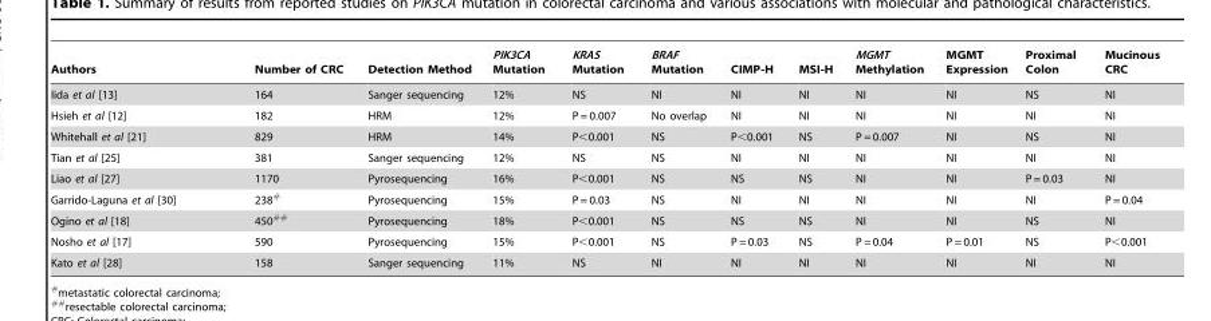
<table><thead><tr><td>Authors</td><td>Number of CRC</td><td>Detection Method</td><td>PIK3CA Mutation</td><td>KRAS Mutation</td><td>BRAF Mutation</td><td>CIMP-H</td><td>MSI-H</td><td>MGMT Methylation</td><td>MGMT Expression</td><td>Proximal Colon</td><td>Mucinous CRC</td></tr></thead><tbody><tr><td>Iida et al [13]</td><td>164</td><td>Sanger sequencing</td><td>12%</td><td>NS</td><td>NI</td><td>NI</td><td>NI</td><td>NI</td><td>NI</td><td>NS</td><td>NI</td></tr><tr><td>Hsieh et al [12]</td><td>182</td><td>HRM</td><td>12%</td><td>P = 0.007</td><td>No overlap</td><td>NI</td><td>NI</td><td>NI</td><td>NI</td><td>NI</td><td>NI</td></tr><tr><td>Whitehall et al [21]</td><td>829</td><td>HRM</td><td>14%</td><td>P&lt;0.001</td><td>NS</td><td>P&lt;0.001</td><td>NS</td><td>P = 0.007</td><td>NI</td><td>NS</td><td>NI</td></tr><tr><td>Tian et al [25]</td><td>381</td><td>Sanger sequencing</td><td>12%</td><td>NS</td><td>NS</td><td>NI</td><td>NI</td><td>NI</td><td>NI</td><td>NI</td><td>NI</td></tr><tr><td>Liao et al [27]</td><td>1170</td><td>Pyrosequencing</td><td>16%</td><td>P&lt;0.001</td><td>NS</td><td>NS</td><td>NS</td><td>NI</td><td>NI</td><td>P = 0.03</td><td>NI</td></tr><tr><td>Garrido-Laguna et al [30]</td><td>238#</td><td>Pyrosequencing</td><td>15%</td><td>P = 0.03</td><td>NS</td><td>NI</td><td>NI</td><td>NI</td><td>NI</td><td>NI</td><td>P = 0.04</td></tr><tr><td>Ogino et al [18]</td><td>450##</td><td>Pyrosequencing</td><td>18%</td><td>P&lt;0.001</td><td>NS</td><td>NS</td><td>NS</td><td>NI</td><td>NI</td><td>NS</td><td>NI</td></tr><tr><td>Nosho et al [17]</td><td>590</td><td>Pyrosequencing</td><td>15%</td><td>P&lt;0.001</td><td>NS</td><td>P = 0.03</td><td>NS</td><td>P = 0.04</td><td>P = 0.01</td><td>NS</td><td>P&lt;0.001</td></tr><tr><td>Kato et al [28]</td><td>158</td><td>Sanger sequencing</td><td>11%</td><td>NS</td><td>NI</td><td>NI</td><td>NI</td><td>NI</td><td>NI</td><td>NI</td><td>NI</td></tr></tbody></table>